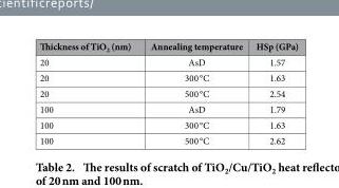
<table><thead><tr><td>Thickness of TiO<sub>2</sub> (nm)</td><td>Annealing temperature</td><td>HSp (GPa)</td></tr></thead><tbody><tr><td>20</td><td>AsD</td><td>1.57</td></tr><tr><td>20</td><td>300 °C</td><td>1.63</td></tr><tr><td>20</td><td>500 °C</td><td>2.54</td></tr><tr><td>100</td><td>AsD</td><td>1.79</td></tr><tr><td>100</td><td>300 °C</td><td>1.63</td></tr><tr><td>100</td><td>500 °C</td><td>2.62</td></tr></tbody></table>